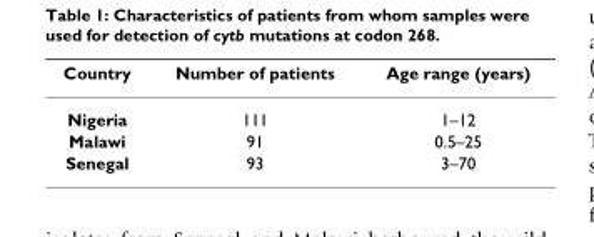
<table><thead><tr><td>Country</td><td>Number of patients</td><td>Age range (years)</td></tr></thead><tbody><tr><td>Nigeria</td><td>111</td><td>1–12</td></tr><tr><td>Malawi</td><td>91</td><td>0.5–25</td></tr><tr><td>Senegal</td><td>93</td><td>3–70</td></tr></tbody></table>